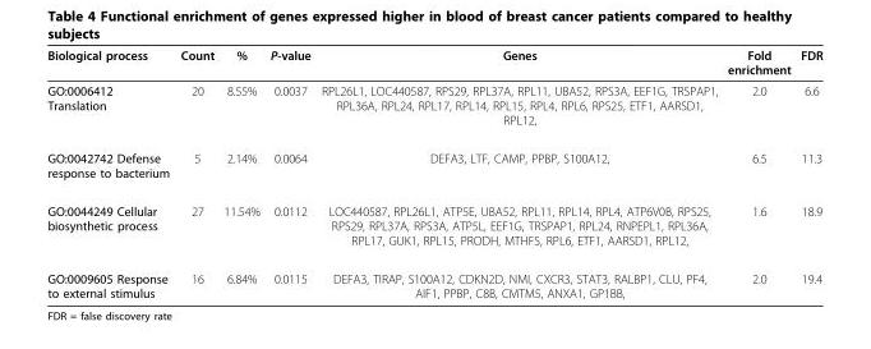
<table><thead><tr><td>Biological process</td><td>Count</td><td>%</td><td>P-value</td><td>Genes</td><td>Fold enrichment</td><td>FDR</td></tr></thead><tbody><tr><td>GO:0006412 Translation</td><td>20</td><td>8.55%</td><td>0.0037</td><td>RPL26L1, LOC440587, RPS29, RPL37A, RPL11, UBA52, RPS3A, EEF1G, TRSPAP1, RPL36A, RPL24, RPL17, RPL14, RPL15, RPL4, RPL6, RPS25, ETF1, AARSD1, RPL12,</td><td>2.0</td><td>6.6</td></tr><tr><td>GO:0042742 Defense response to bacterium</td><td>5</td><td>2.14%</td><td>0.0064</td><td>DEFA3, LTF, CAMP, PPBP, S100A12,</td><td>6.5</td><td>11.3</td></tr><tr><td>GO:0044249 Cellular biosynthetic process</td><td>27</td><td>11.54%</td><td>0.0112</td><td>LOC440587, RPL26L1, ATP5E, UBA52, RPL11, RPL14, RPL4, ATP6V0B, RPS25, RPS29, RPL37A, RPS3A, ATP5L, EEF1G, TRSPAP1, RPL24, RNPEPL1, RPL36A, RPL17, GUK1, RPL15, PRODH, MTHFS, RPL6, ETF1, AARSD1, RPL12,</td><td>1.6</td><td>18.9</td></tr><tr><td>GO:0009605 Response to external stimulus</td><td>16</td><td>6.84%</td><td>0.0115</td><td>DEFA3, TIRAP, S100A12, CDKN2D, NMI, CXCR3, STAT3, RALBP1, CLU, PF4, AIF1, PPBP, C8B, CMTM5, ANXA1, GP1BB,</td><td>2.0</td><td>19.4</td></tr></tbody></table>